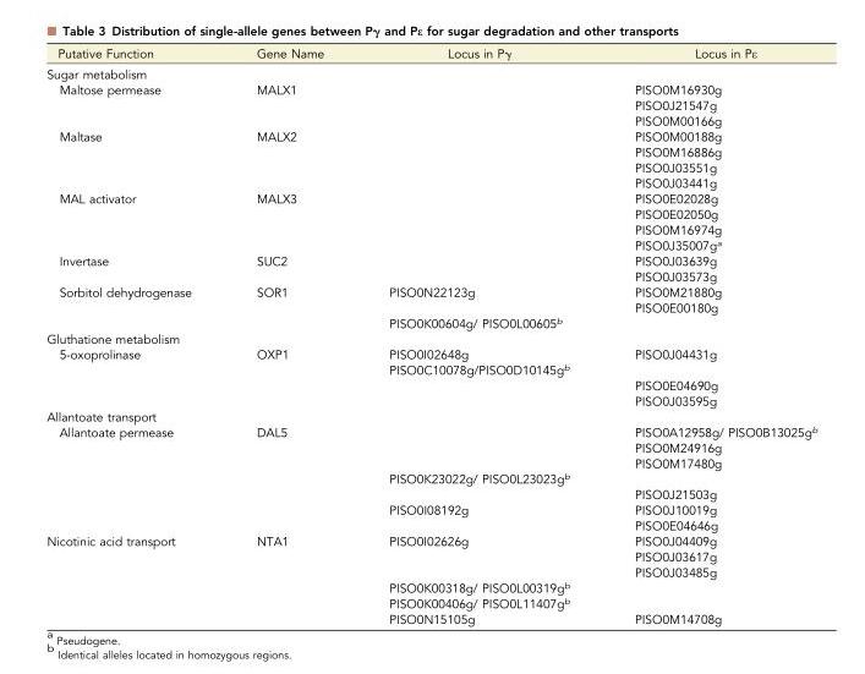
<table><thead><tr><td>Putative Function</td><td>Gene Name</td><td>Locus in Pγ</td><td>Locus in Pε</td></tr></thead><tbody><tr><td colspan="4">Sugar metabolism</td></tr><tr><td rowspan="3">Maltose permease</td><td>MALX1</td><td></td><td>PISO0M16930g</td></tr><tr><td></td><td></td><td>PISO0J21547g</td></tr><tr><td></td><td></td><td>PISO0M00166g</td></tr><tr><td rowspan="4">Maltase</td><td>MALX2</td><td></td><td>PISO0M00188g</td></tr><tr><td></td><td></td><td>PISO0M16886g</td></tr><tr><td></td><td></td><td>PISO0J03551g</td></tr><tr><td></td><td></td><td>PISO0J03441g</td></tr><tr><td rowspan="4">MAL activator</td><td>MALX3</td><td></td><td>PISO0E02028g</td></tr><tr><td></td><td></td><td>PISO0E02050g</td></tr><tr><td></td><td></td><td>PISO0M16974g</td></tr><tr><td></td><td></td><td>PISO0J35007g<sup>a</sup></td></tr><tr><td rowspan="2">Invertase</td><td>SUC2</td><td></td><td>PISO0J03639g</td></tr><tr><td></td><td></td><td>PISO0J03573g</td></tr><tr><td rowspan="3">Sorbitol dehydrogenase</td><td>SOR1</td><td>PISO0N22123g</td><td>PISO0M21880g</td></tr><tr><td></td><td></td><td>PISO0E00180g</td></tr><tr><td></td><td>PISO0K00604g/ PISO0L00605<sup>b</sup></td><td></td></tr><tr><td colspan="4">Gluthatione metabolism</td></tr><tr><td rowspan="4">5-oxoprolinase</td><td>OXP1</td><td>PISO0I02648g</td><td>PISO0J04431g</td></tr><tr><td></td><td>PISO0C10078g/PISO0D10145g<sup>b</sup></td><td></td></tr><tr><td></td><td></td><td>PISO0E04690g</td></tr><tr><td></td><td></td><td>PISO0J03595g</td></tr><tr><td colspan="4">Allantoate transport</td></tr><tr><td rowspan="7">Allantoate permease</td><td>DAL5</td><td></td><td>PISO0A12958g/ PISO0B13025g<sup>b</sup></td></tr><tr><td></td><td></td><td>PISO0M24916g</td></tr><tr><td></td><td></td><td>PISO0M17480g</td></tr><tr><td></td><td>PISO0K23022g/ PISO0L23023g<sup>b</sup></td><td></td></tr><tr><td></td><td></td><td>PISO0J21503g</td></tr><tr><td></td><td>PISO0I08192g</td><td>PISO0J10019g</td></tr><tr><td></td><td></td><td>PISO0E04646g</td></tr><tr><td rowspan="6">Nicotinic acid transport</td><td>NTA1</td><td>PISO0I02626g</td><td>PISO0J04409g</td></tr><tr><td></td><td></td><td>PISO0J03617g</td></tr><tr><td></td><td></td><td>PISO0J03485g</td></tr><tr><td></td><td>PISO0K00318g/ PISO0L00319g<sup>b</sup></td><td></td></tr><tr><td></td><td>PISO0K00406g/ PISO0L11407g<sup>b</sup></td><td></td></tr><tr><td></td><td>PISO0N15105g</td><td>PISO0M14708g</td></tr></tbody></table>